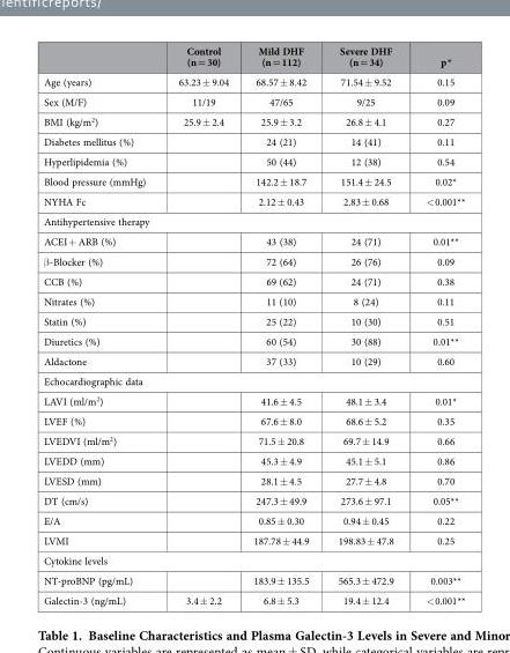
<table><thead><tr><td></td><td>Control (n = 30)</td><td>Mild DHF (n = 112)</td><td>Severe DHF (n = 34)</td><td>p*</td></tr></thead><tbody><tr><td>Age (years)</td><td>63.23 ± 9.04</td><td>68.57 ± 8.42</td><td>71.54 ± 9.52</td><td>0.15</td></tr><tr><td>Sex (M/F)</td><td>11/19</td><td>47/65</td><td>9/25</td><td>0.09</td></tr><tr><td>BMI (kg/m<sup>2</sup>)</td><td>25.9 ± 2.4</td><td>25.9 ± 3.2</td><td>26.8 ± 4.1</td><td>0.27</td></tr><tr><td>Diabetes mellitus (%)</td><td></td><td>24 (21)</td><td>14 (41)</td><td>0.11</td></tr><tr><td>Hyperlipidemia (%)</td><td></td><td>50 (44)</td><td>12 (38)</td><td>0.54</td></tr><tr><td>Blood pressure (mmHg)</td><td></td><td>142.2 ± 18.7</td><td>151.4 ± 24.5</td><td>0.02*</td></tr><tr><td>NYHA Fc</td><td></td><td>2.12 ± 0.43</td><td>2.83 ± 0.68</td><td>&lt; 0.001**</td></tr><tr><td colspan="5">Antihypertensive therapy</td></tr><tr><td>ACEI + ARB (%)</td><td></td><td>43 (38)</td><td>24 (71)</td><td>0.01**</td></tr><tr><td>β -Blocker (%)</td><td></td><td>72 (64)</td><td>26 (76)</td><td>0.09</td></tr><tr><td>CCB (%)</td><td></td><td>69 (62)</td><td>24 (71)</td><td>0.38</td></tr><tr><td>Nitrates (%)</td><td></td><td>11 (10)</td><td>8 (24)</td><td>0.11</td></tr><tr><td>Statin (%)</td><td></td><td>25 (22)</td><td>10 (30)</td><td>0.51</td></tr><tr><td>Diuretics (%)</td><td></td><td>60 (54)</td><td>30 (88)</td><td>0.01**</td></tr><tr><td>Aldactone</td><td></td><td>37 (33)</td><td>10 (29)</td><td>0.60</td></tr><tr><td colspan="5">Echocardiographic data</td></tr><tr><td>LAVI (ml/m<sup>2</sup>)</td><td></td><td>41.6 ± 4.5</td><td>48.1 ± 3.4</td><td>0.01*</td></tr><tr><td>LVEF (%)</td><td></td><td>67.6 ± 8.0</td><td>68.6 ± 5.2</td><td>0.35</td></tr><tr><td>LVEDVI (ml/m<sup>2</sup>)</td><td></td><td>71.5 ± 20.8</td><td>69.7 ± 14.9</td><td>0.66</td></tr><tr><td>LVEDD (mm)</td><td></td><td>45.3 ± 4.9</td><td>45.1 ± 5.1</td><td>0.86</td></tr><tr><td>LVESD (mm)</td><td></td><td>28.1 ± 4.5</td><td>27.7 ± 4.8</td><td>0.70</td></tr><tr><td>DT (cm/s)</td><td></td><td>247.3 ± 49.9</td><td>273.6 ± 97.1</td><td>0.05**</td></tr><tr><td>E/A</td><td></td><td>0.85 ± 0.30</td><td>0.94 ± 0.45</td><td>0.22</td></tr><tr><td>LVMI</td><td></td><td>187.78 ± 44.9</td><td>198.83 ± 47.8</td><td>0.25</td></tr><tr><td colspan="5">Cytokine levels</td></tr><tr><td>NT-proBNP (pg/mL)</td><td></td><td>183.9 ± 135.5</td><td>565.3 ± 472.9</td><td>0.003**</td></tr><tr><td>Galectin-3 (ng/mL)</td><td>3.4 ± 2.2</td><td>6.8 ± 5.3</td><td>19.4 ± 12.4</td><td>&lt; 0.001**</td></tr></tbody></table>